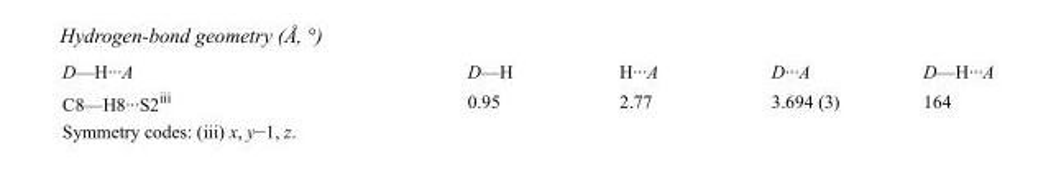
<table><tbody><tr><td>D—H···A</td><td>D—H</td><td>H···A</td><td>D···A</td><td>D—H···A</td></tr><tr><td>C8—H8···S2<sup>iii</sup></td><td>0.95</td><td>2.77</td><td>3.694 (3)</td><td>164</td></tr></tbody></table>